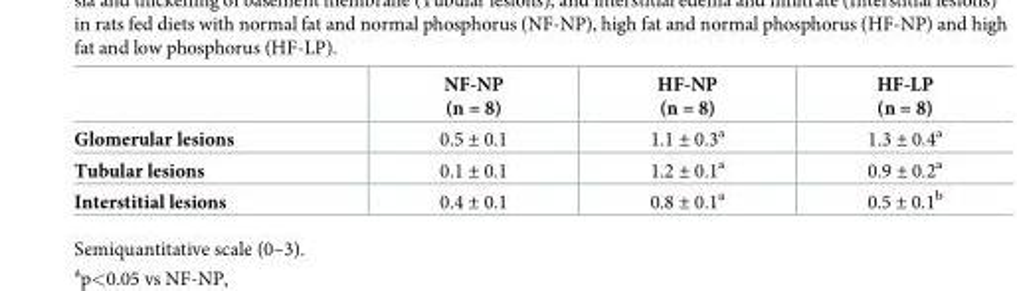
<table><thead><tr><td></td><td>NF-NP (n = 8)</td><td>HF-NP (n = 8)</td><td>HF-LP (n = 8)</td></tr></thead><tbody><tr><td>Glomerular lesions</td><td>0.5 ± 0.1</td><td>1.1 ± 0.3<sup>a</sup></td><td>1.3 ± 0.4<sup>a</sup></td></tr><tr><td>Tubular lesions</td><td>0.1 ± 0.1</td><td>1.2 ± 0.1<sup>a</sup></td><td>0.9 ± 0.2<sup>a</sup></td></tr><tr><td>Interstitial lesions</td><td>0.4 ± 0.1</td><td>0.8 ± 0.1<sup>a</sup></td><td>0.5 ± 0.1<sup>b</sup></td></tr></tbody></table>